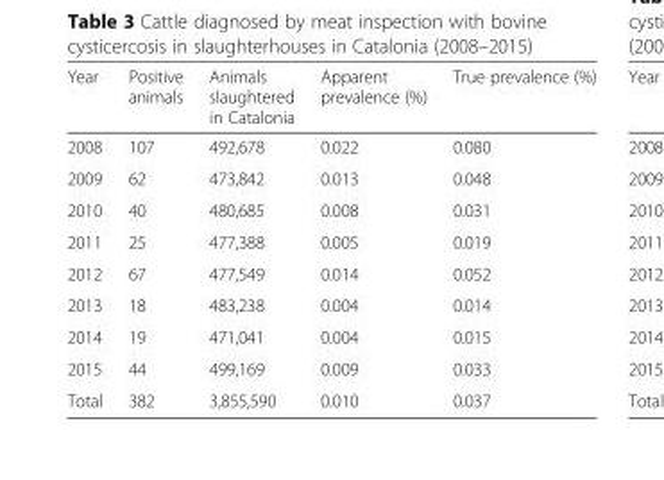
<table><thead><tr><td>Year</td><td>Positive animals</td><td>Animals slaughtered in Catalonia</td><td>Apparent prevalence (%)</td><td>True prevalence (%)</td></tr></thead><tbody><tr><td>2008</td><td>107</td><td>492,678</td><td>0.022</td><td>0.080</td></tr><tr><td>2009</td><td>62</td><td>473,842</td><td>0.013</td><td>0.048</td></tr><tr><td>2010</td><td>40</td><td>480,685</td><td>0.008</td><td>0.031</td></tr><tr><td>2011</td><td>25</td><td>477,388</td><td>0.005</td><td>0.019</td></tr><tr><td>2012</td><td>67</td><td>477,549</td><td>0.014</td><td>0.052</td></tr><tr><td>2013</td><td>18</td><td>483,238</td><td>0.004</td><td>0.014</td></tr><tr><td>2014</td><td>19</td><td>471,041</td><td>0.004</td><td>0.015</td></tr><tr><td>2015</td><td>44</td><td>499,169</td><td>0.009</td><td>0.033</td></tr><tr><td>Total</td><td>382</td><td>3,855,590</td><td>0.010</td><td>0.037</td></tr></tbody></table>